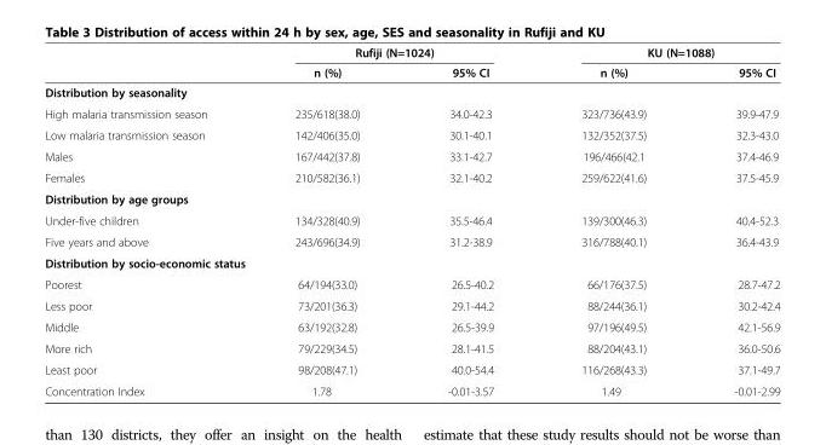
<table><thead><tr><td rowspan="2"></td><td colspan="2">Rufiji (N=1024)</td><td colspan="2">KU (N=1088)</td></tr><tr><td>n (%)</td><td>95% CI</td><td>n (%)</td><td>95% CI</td></tr></thead><tbody><tr><td colspan="5">Distribution by seasonality</td></tr><tr><td>High malaria transmission season</td><td>235/618(38.0)</td><td>34.0-42.3</td><td>323/736(43.9)</td><td>39.9-47.9</td></tr><tr><td>Low malaria transmission season</td><td>142/406(35.0)</td><td>30.1-40.1</td><td>132/352(37.5)</td><td>32.3-43.0</td></tr><tr><td>Males</td><td>167/442(37.8)</td><td>33.1-42.7</td><td>196/466(42.1</td><td>37.4-46.9</td></tr><tr><td>Females</td><td>210/582(36.1)</td><td>32.1-40.2</td><td>259/622(41.6)</td><td>37.5-45.9</td></tr><tr><td colspan="5">Distribution by age groups</td></tr><tr><td>Under-five children</td><td>134/328(40.9)</td><td>35.5-46.4</td><td>139/300(46.3)</td><td>40.4-52.3</td></tr><tr><td>Five years and above</td><td>243/696(34.9)</td><td>31.2-38.9</td><td>316/788(40.1)</td><td>36.4-43.9</td></tr><tr><td colspan="5">Distribution by socio-economic status</td></tr><tr><td>Poorest</td><td>64/194(33.0)</td><td>26.5-40.2</td><td>66/176(37.5)</td><td>28.7-47.2</td></tr><tr><td>Less poor</td><td>73/201(36.3)</td><td>29.1-44.2</td><td>88/244(36.1)</td><td>30.2-42.4</td></tr><tr><td>Middle</td><td>63/192(32.8)</td><td>26.5-39.9</td><td>97/196(49.5)</td><td>42.1-56.9</td></tr><tr><td>More rich</td><td>79/229(34.5)</td><td>28.1-41.5</td><td>88/204(43.1)</td><td>36.0-50.6</td></tr><tr><td>Least poor</td><td>98/208(47.1)</td><td>40.0-54.4</td><td>116/268(43.3)</td><td>37.1-49.7</td></tr><tr><td>Concentration Index</td><td>1.78</td><td>-0.01-3.57</td><td>1.49</td><td>-0.01-2.99</td></tr></tbody></table>